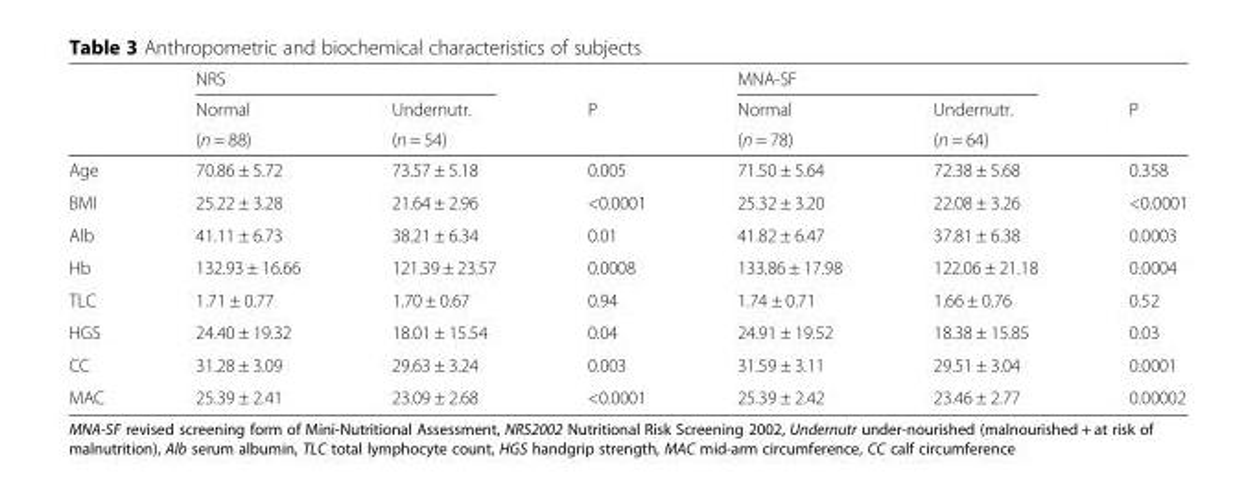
<table><thead><tr><td rowspan="3"></td><td colspan="2">NRS</td><td rowspan="3">P</td><td colspan="2">MNA-SF</td><td rowspan="3">P</td></tr><tr><td rowspan="2">Normal (n = 88)</td><td rowspan="2">Undernutr. (n = 54)</td><td rowspan="2">Normal (n = 78)</td><td rowspan="2">Undernutr. (n = 64)</td></tr><tr></tr></thead><tbody><tr><td>Age</td><td>70.86 ± 5.72</td><td>73.57 ± 5.18</td><td>0.005</td><td>71.50 ± 5.64</td><td>72.38 ± 5.68</td><td>0.358</td></tr><tr><td>BMI</td><td>25.22 ± 3.28</td><td>21.64 ± 2.96</td><td>&lt;0.0001</td><td>25.32 ± 3.20</td><td>22.08 ± 3.26</td><td>&lt;0.0001</td></tr><tr><td>Alb</td><td>41.11 ± 6.73</td><td>38.21 ± 6.34</td><td>0.01</td><td>41.82 ± 6.47</td><td>37.81 ± 6.38</td><td>0.0003</td></tr><tr><td>Hb</td><td>132.93 ± 16.66</td><td>121.39 ± 23.57</td><td>0.0008</td><td>133.86 ± 17.98</td><td>122.06 ± 21.18</td><td>0.0004</td></tr><tr><td>TLC</td><td>1.71 ± 0.77</td><td>1.70 ± 0.67</td><td>0.94</td><td>1.74 ± 0.71</td><td>1.66 ± 0.76</td><td>0.52</td></tr><tr><td>HGS</td><td>24.40 ± 19.32</td><td>18.01 ± 15.54</td><td>0.04</td><td>24.91 ± 19.52</td><td>18.38 ± 15.85</td><td>0.03</td></tr><tr><td>CC</td><td>31.28 ± 3.09</td><td>29.63 ± 3.24</td><td>0.003</td><td>31.59 ± 3.11</td><td>29.51 ± 3.04</td><td>0.0001</td></tr><tr><td>MAC</td><td>25.39 ± 2.41</td><td>23.09 ± 2.68</td><td>&lt;0.0001</td><td>25.39 ± 2.42</td><td>23.46 ± 2.77</td><td>0.00002</td></tr></tbody></table>